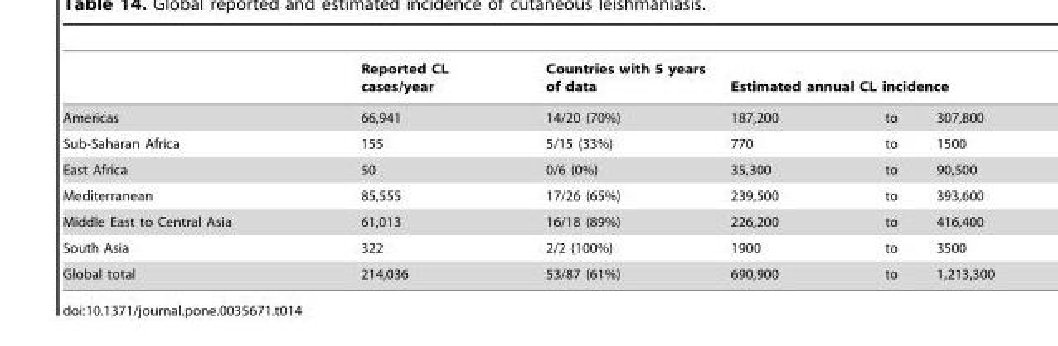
<table><thead><tr><td rowspan="2">Americas</td><td rowspan="2">Reported CL cases/year 66,941</td><td rowspan="2">Countries with 5 years of data 14/20 (70%)</td><td colspan="3">Estimated annual CL incidence</td></tr><tr><td>187,200</td><td>to</td><td>307,800</td></tr></thead><tbody><tr><td>Sub-Saharan Africa</td><td>155</td><td>5/15 (33%)</td><td>770</td><td>to</td><td>1500</td></tr><tr><td>East Africa</td><td>50</td><td>0/6 (0%)</td><td>35,300</td><td>to</td><td>90,500</td></tr><tr><td>Mediterranean</td><td>85,555</td><td>17/26 (65%)</td><td>239,500</td><td>to</td><td>393,600</td></tr><tr><td>Middle East to Central Asia</td><td>61,013</td><td>16/18 (89%)</td><td>226,200</td><td>to</td><td>416,400</td></tr><tr><td>South Asia</td><td>322</td><td>2/2 (100%)</td><td>1900</td><td>to</td><td>3500</td></tr><tr><td>Global total</td><td>214,036</td><td>53/87 (61%)</td><td>690,900</td><td>to</td><td>1,213,300</td></tr></tbody></table>